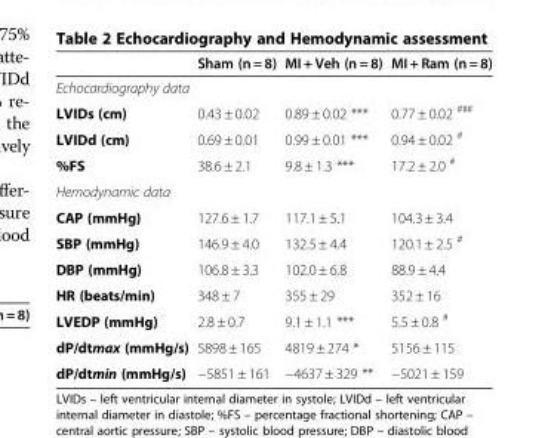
<table><thead><tr><td></td><td>Sham (n = 8)</td><td>MI + Veh (n = 8)</td><td>MI + Ram (n = 8)</td></tr></thead><tbody><tr><td colspan="4">Echocardiography data</td></tr><tr><td>LVIDs (cm)</td><td>0.43 ± 0.02</td><td>0.89 ± 0.02 ***</td><td>0.77 ± 0.02 <sup>###</sup></td></tr><tr><td>LVIDd (cm)</td><td>0.69 ± 0.01</td><td>0.99 ± 0.01 ***</td><td>0.94 ± 0.02 <sup>#</sup></td></tr><tr><td>%FS</td><td>38.6 ± 2.1</td><td>9.8 ± 1.3 ***</td><td>17.2 ± 2.0 <sup>#</sup></td></tr><tr><td colspan="4">Hemodynamic data</td></tr><tr><td>CAP (mmHg)</td><td>127.6 ± 1.7</td><td>117.1 ± 5.1</td><td>104.3 ± 3.4</td></tr><tr><td>SBP (mmHg)</td><td>146.9 ± 4.0</td><td>132.5 ± 4.4</td><td>120.1 ± 2.5 <sup>#</sup></td></tr><tr><td>DBP (mmHg)</td><td>106.8 ± 3.3</td><td>102.0 ± 6.8</td><td>88.9 ± 4.4</td></tr><tr><td>HR (beats/min)</td><td>348 ± 7</td><td>355 ± 29</td><td>352 ± 16</td></tr><tr><td>LVEDP (mmHg)</td><td>2.8 ± 0.7</td><td>9.1 ± 1.1 ***</td><td>5.5 ± 0.8 <sup>#</sup></td></tr><tr><td>dP/dtmax (mmHg/s)</td><td>5898 ± 165</td><td>4819 ± 274 *</td><td>5156 ± 115</td></tr><tr><td>dP/dtmin (mmHg/s)</td><td>−5851 ± 161</td><td>−4637 ± 329 **</td><td>−5021 ± 159</td></tr></tbody></table>